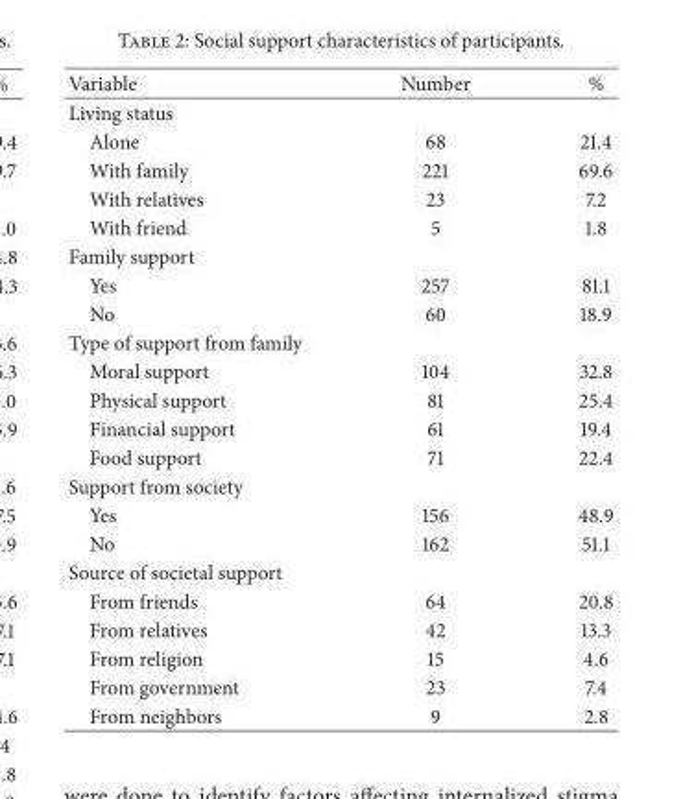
<table><thead><tr><td>Variable</td><td>Number</td><td>%</td></tr></thead><tbody><tr><td colspan="3">Living status</td></tr><tr><td>Alone</td><td>68</td><td>21.4</td></tr><tr><td>With family</td><td>221</td><td>69.6</td></tr><tr><td>With relatives</td><td>23</td><td>7.2</td></tr><tr><td>With friend</td><td>5</td><td>1.8</td></tr><tr><td colspan="3">Family support</td></tr><tr><td>Yes</td><td>257</td><td>81.1</td></tr><tr><td>No</td><td>60</td><td>18.9</td></tr><tr><td colspan="3">Type of support from family</td></tr><tr><td>Moral support</td><td>104</td><td>32.8</td></tr><tr><td>Physical support</td><td>81</td><td>25.4</td></tr><tr><td>Financial support</td><td>61</td><td>19.4</td></tr><tr><td>Food support</td><td>71</td><td>22.4</td></tr><tr><td colspan="3">Support from society</td></tr><tr><td>Yes</td><td>156</td><td>48.9</td></tr><tr><td>No</td><td>162</td><td>51.1</td></tr><tr><td colspan="3">Source of societal support</td></tr><tr><td>From friends</td><td>64</td><td>20.8</td></tr><tr><td>From relatives</td><td>42</td><td>13.3</td></tr><tr><td>From religion</td><td>15</td><td>4.6</td></tr><tr><td>From government</td><td>23</td><td>7.4</td></tr><tr><td>From neighbors</td><td>9</td><td>2.8</td></tr></tbody></table>